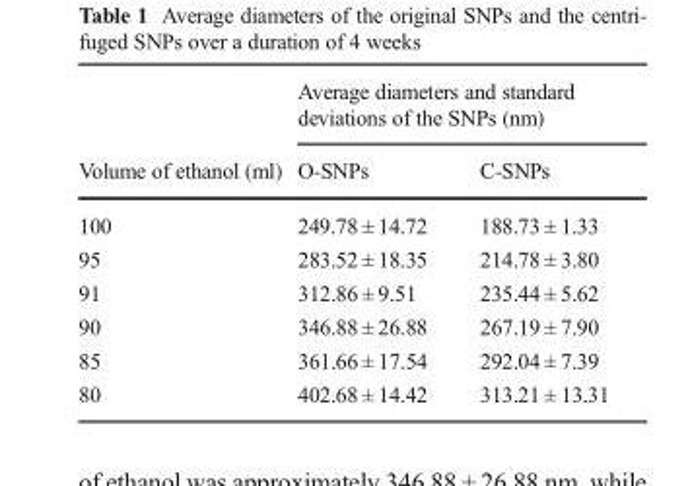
<table><thead><tr><td rowspan="2">Volume of ethanol (ml)</td><td colspan="2">Average diameters and standard deviations of the SNPs (nm)</td></tr><tr><td>O-SNPs</td><td>C-SNPs</td></tr></thead><tbody><tr><td>100</td><td>249.78 ± 14.72</td><td>188.73 ± 1.33</td></tr><tr><td>95</td><td>283.52 ± 18.35</td><td>214.78 ± 3.80</td></tr><tr><td>91</td><td>312.86 ± 9.51</td><td>235.44 ± 5.62</td></tr><tr><td>90</td><td>346.88 ± 26.88</td><td>267.19 ± 7.90</td></tr><tr><td>85</td><td>361.66 ± 17.54</td><td>292.04 ± 7.39</td></tr><tr><td>80</td><td>402.68 ± 14.42</td><td>313.21 ± 13.31</td></tr></tbody></table>